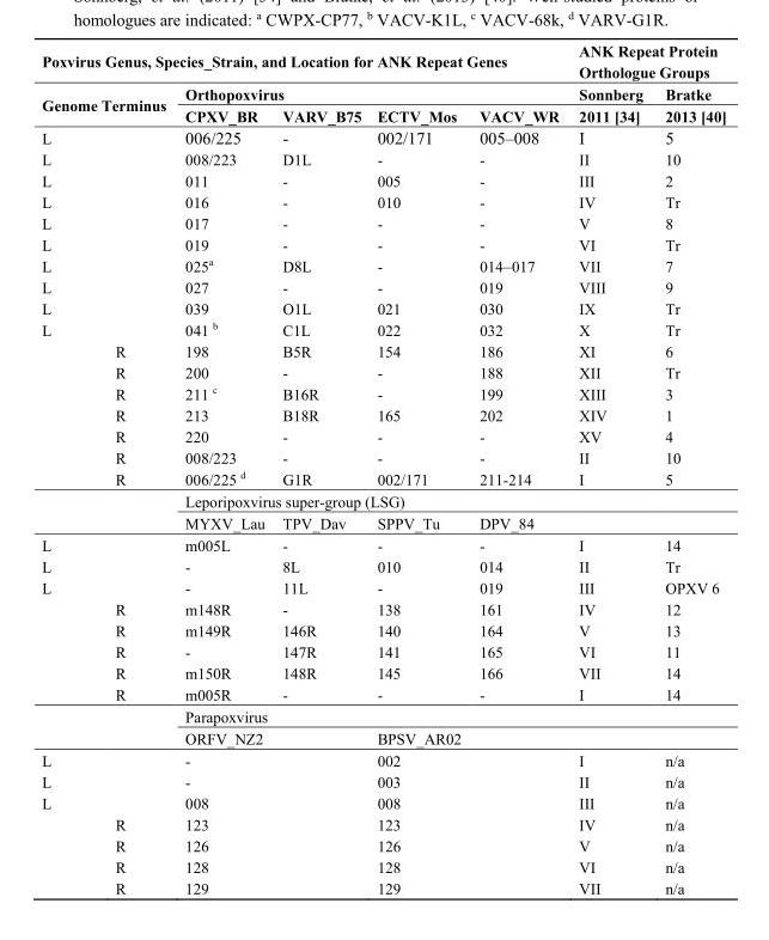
<table><thead><tr><td colspan="6">Poxvirus Genus, Species_Strain, and Location for ANK Repeat Genes</td><td colspan="2">ANK Repeat Protein Orthologue Groups</td></tr><tr><td rowspan="2" colspan="2">Genome Terminus</td><td colspan="4">Orthopoxvirus</td><td rowspan="3">Sonnberg 2011 [34] I</td><td rowspan="3">Bratke 2013 [40] 5</td></tr><tr><td rowspan="2">CPXV_BR 006/225</td><td rowspan="2">VARV_B75 -</td><td rowspan="2">ECTV_Mos 002/171</td><td rowspan="2">VACV_WR 005–008</td></tr><tr><td>L</td><td></td></tr></thead><tbody><tr><td>L</td><td></td><td>008/223</td><td>D1L</td><td>-</td><td>-</td><td>II</td><td>10</td></tr><tr><td>L</td><td></td><td>011</td><td>-</td><td>005</td><td>-</td><td>III</td><td>2</td></tr><tr><td>L</td><td></td><td>016</td><td>-</td><td>010</td><td>-</td><td>IV</td><td>Tr</td></tr><tr><td>L</td><td></td><td>017</td><td>-</td><td>-</td><td>-</td><td>V</td><td>8</td></tr><tr><td>L</td><td></td><td>019</td><td>-</td><td>-</td><td>-</td><td>VI</td><td>Tr</td></tr><tr><td>L</td><td></td><td>025<sup>a</sup></td><td>D8L</td><td>-</td><td>014–017</td><td>VII</td><td>7</td></tr><tr><td>L</td><td></td><td>027</td><td>-</td><td>-</td><td>019</td><td>VIII</td><td>9</td></tr><tr><td>L</td><td></td><td>039</td><td>O1L</td><td>021</td><td>030</td><td>IX</td><td>Tr</td></tr><tr><td rowspan="8">L</td><td></td><td>041 <sup>b</sup></td><td>C1L</td><td>022</td><td>032</td><td>X</td><td>Tr</td></tr><tr><td>R</td><td>198</td><td>B5R</td><td>154</td><td>186</td><td>XI</td><td>6</td></tr><tr><td>R</td><td>200</td><td>-</td><td>-</td><td>188</td><td>XII</td><td>Tr</td></tr><tr><td>R</td><td>211 <sup>c</sup></td><td>B16R</td><td>-</td><td>199</td><td>XIII</td><td>3</td></tr><tr><td>R</td><td>213</td><td>B18R</td><td>165</td><td>202</td><td>XIV</td><td>1</td></tr><tr><td>R</td><td>220</td><td>-</td><td>-</td><td>-</td><td>XV</td><td>4</td></tr><tr><td>R</td><td>008/223</td><td>-</td><td>-</td><td>-</td><td>II</td><td>10</td></tr><tr><td>R</td><td>006/225 <sup>d</sup></td><td>G1R</td><td>002/171</td><td>211-214</td><td>I</td><td>5</td></tr><tr><td rowspan="2" colspan="2"></td><td colspan="4">Leporipoxvirus super-group (LSG)</td><td></td><td></td></tr><tr><td>MYXV_Lau</td><td>TPV_Dav</td><td>SPPV_Tu</td><td>DPV_84</td><td></td><td></td></tr><tr><td>L</td><td></td><td>m005L</td><td>-</td><td>-</td><td>-</td><td>I</td><td>14</td></tr><tr><td>L</td><td></td><td>-</td><td>8L</td><td>010</td><td>014</td><td>II</td><td>Tr</td></tr><tr><td rowspan="6">L</td><td></td><td>-</td><td>11L</td><td>-</td><td>019</td><td>III</td><td>OPXV 6</td></tr><tr><td>R</td><td>m148R</td><td>-</td><td>138</td><td>161</td><td>IV</td><td>12</td></tr><tr><td>R</td><td>m149R</td><td>146R</td><td>140</td><td>164</td><td>V</td><td>13</td></tr><tr><td>R</td><td>-</td><td>147R</td><td>141</td><td>165</td><td>VI</td><td>11</td></tr><tr><td>R</td><td>m150R</td><td>148R</td><td>145</td><td>166</td><td>VII</td><td>14</td></tr><tr><td>R</td><td>m005R</td><td>-</td><td>-</td><td>-</td><td>I</td><td>14</td></tr><tr><td rowspan="2" colspan="2"></td><td colspan="4">Parapoxvirus</td><td></td><td></td></tr><tr><td colspan="2">ORFV_NZ2</td><td colspan="2">BPSV_AR02</td><td></td><td></td></tr><tr><td>L</td><td></td><td colspan="2">-</td><td colspan="2">002</td><td>I</td><td>n/a</td></tr><tr><td>L</td><td></td><td colspan="2">-</td><td colspan="2">003</td><td>II</td><td>n/a</td></tr><tr><td rowspan="5">L</td><td></td><td colspan="2">008</td><td colspan="2">008</td><td>III</td><td>n/a</td></tr><tr><td>R</td><td colspan="2">123</td><td colspan="2">123</td><td>IV</td><td>n/a</td></tr><tr><td>R</td><td colspan="2">126</td><td colspan="2">126</td><td>V</td><td>n/a</td></tr><tr><td>R</td><td colspan="2">128</td><td colspan="2">128</td><td>VI</td><td>n/a</td></tr><tr><td>R</td><td colspan="2">129</td><td colspan="2">129</td><td>VII</td><td>n/a</td></tr></tbody></table>